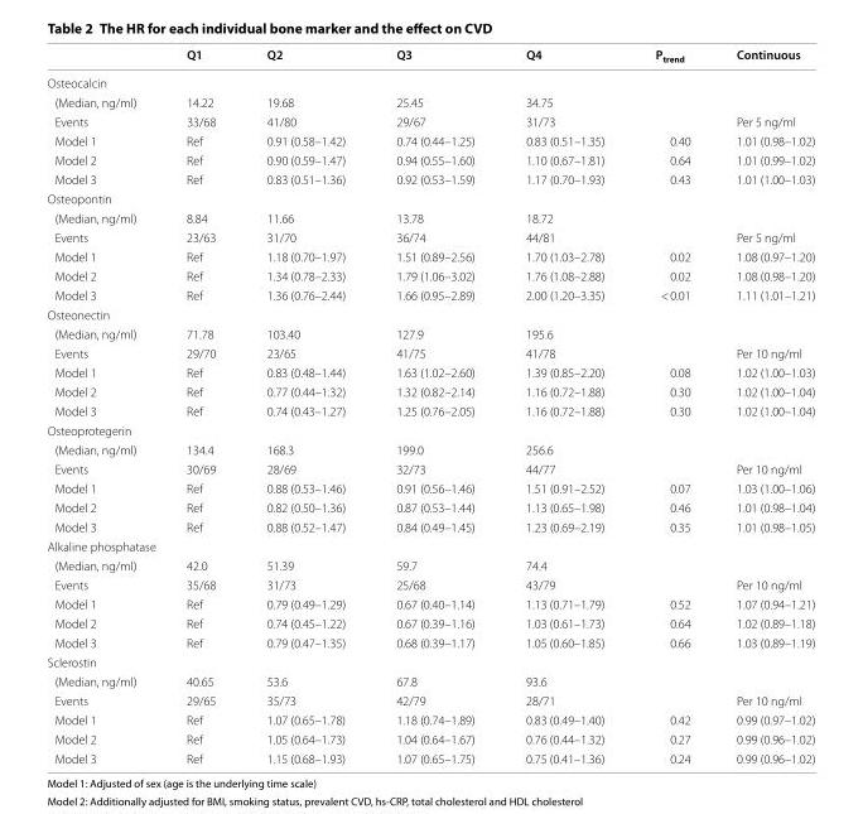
<table><thead><tr><td></td><td>Q1</td><td>Q2</td><td>Q3</td><td>Q4</td><td>P<sub>trend</sub></td><td>Continuous</td></tr></thead><tbody><tr><td colspan="7">Osteocalcin</td></tr><tr><td>(Median, ng/ml)</td><td>14.22</td><td>19.68</td><td>25.45</td><td>34.75</td><td></td><td></td></tr><tr><td>Events</td><td>33/68</td><td>41/80</td><td>29/67</td><td>31/73</td><td></td><td>Per 5 ng/ml</td></tr><tr><td>Model 1</td><td>Ref</td><td>0.91 (0.58–1.42)</td><td>0.74 (0.44–1.25)</td><td>0.83 (0.51–1.35)</td><td>0.40</td><td>1.01 (0.98–1.02)</td></tr><tr><td>Model 2</td><td>Ref</td><td>0.90 (0.59–1.47)</td><td>0.94 (0.55–1.60)</td><td>1.10 (0.67–1.81)</td><td>0.64</td><td>1.01 (0.99–1.02)</td></tr><tr><td>Model 3</td><td>Ref</td><td>0.83 (0.51–1.36)</td><td>0.92 (0.53–1.59)</td><td>1.17 (0.70–1.93)</td><td>0.43</td><td>1.01 (1.00–1.03)</td></tr><tr><td colspan="7">Osteopontin</td></tr><tr><td>(Median, ng/ml)</td><td>8.84</td><td>11.66</td><td>13.78</td><td>18.72</td><td></td><td></td></tr><tr><td>Events</td><td>23/63</td><td>31/70</td><td>36/74</td><td>44/81</td><td></td><td>Per 5 ng/ml</td></tr><tr><td>Model 1</td><td>Ref</td><td>1.18 (0.70–1.97)</td><td>1.51 (0.89–2.56)</td><td>1.70 (1.03–2.78)</td><td>0.02</td><td>1.08 (0.97–1.20)</td></tr><tr><td>Model 2</td><td>Ref</td><td>1.34 (0.78–2.33)</td><td>1.79 (1.06–3.02)</td><td>1.76 (1.08–2.88)</td><td>0.02</td><td>1.08 (0.98–1.20)</td></tr><tr><td>Model 3</td><td>Ref</td><td>1.36 (0.76–2.44)</td><td>1.66 (0.95–2.89)</td><td>2.00 (1.20–3.35)</td><td>&lt; 0.01</td><td>1.11 (1.01–1.21)</td></tr><tr><td colspan="7">Osteonectin</td></tr><tr><td>(Median, ng/ml)</td><td>71.78</td><td>103.40</td><td>127.9</td><td>195.6</td><td></td><td></td></tr><tr><td>Events</td><td>29/70</td><td>23/65</td><td>41/75</td><td>41/78</td><td></td><td>Per 10 ng/ml</td></tr><tr><td>Model 1</td><td>Ref</td><td>0.83 (0.48–1.44)</td><td>1.63 (1.02–2.60)</td><td>1.39 (0.85–2.20)</td><td>0.08</td><td>1.02 (1.00–1.03)</td></tr><tr><td>Model 2</td><td>Ref</td><td>0.77 (0.44–1.32)</td><td>1.32 (0.82–2.14)</td><td>1.16 (0.72–1.88)</td><td>0.30</td><td>1.02 (1.00–1.04)</td></tr><tr><td>Model 3</td><td>Ref</td><td>0.74 (0.43–1.27)</td><td>1.25 (0.76–2.05)</td><td>1.16 (0.72–1.88)</td><td>0.30</td><td>1.02 (1.00–1.04)</td></tr><tr><td colspan="7">Osteoprotegerin</td></tr><tr><td>(Median, ng/ml)</td><td>134.4</td><td>168.3</td><td>199.0</td><td>256.6</td><td></td><td></td></tr><tr><td>Events</td><td>30/69</td><td>28/69</td><td>32/73</td><td>44/77</td><td></td><td>Per 10 ng/ml</td></tr><tr><td>Model 1</td><td>Ref</td><td>0.88 (0.53–1.46)</td><td>0.91 (0.56–1.46)</td><td>1.51 (0.91–2.52)</td><td>0.07</td><td>1.03 (1.00–1.06)</td></tr><tr><td>Model 2</td><td>Ref</td><td>0.82 (0.50–1.36)</td><td>0.87 (0.53–1.44)</td><td>1.13 (0.65–1.98)</td><td>0.46</td><td>1.01 (0.98–1.04)</td></tr><tr><td>Model 3</td><td>Ref</td><td>0.88 (0.52–1.47)</td><td>0.84 (0.49–1.45)</td><td>1.23 (0.69–2.19)</td><td>0.35</td><td>1.01 (0.98–1.05)</td></tr><tr><td colspan="7">Alkaline phosphatase</td></tr><tr><td>(Median, ng/ml)</td><td>42.0</td><td>51.39</td><td>59.7</td><td>74.4</td><td></td><td></td></tr><tr><td>Events</td><td>35/68</td><td>31/73</td><td>25/68</td><td>43/79</td><td></td><td>Per 10 ng/ml</td></tr><tr><td>Model 1</td><td>Ref</td><td>0.79 (0.49–1.29)</td><td>0.67 (0.40–1.14)</td><td>1.13 (0.71–1.79)</td><td>0.52</td><td>1.07 (0.94–1.21)</td></tr><tr><td>Model 2</td><td>Ref</td><td>0.74 (0.45–1.22)</td><td>0.67 (0.39–1.16)</td><td>1.03 (0.61–1.73)</td><td>0.64</td><td>1.02 (0.89–1.18)</td></tr><tr><td>Model 3</td><td>Ref</td><td>0.79 (0.47–1.35)</td><td>0.68 (0.39–1.17)</td><td>1.05 (0.60–1.85)</td><td>0.66</td><td>1.03 (0.89–1.19)</td></tr><tr><td colspan="7">Sclerostin</td></tr><tr><td>(Median, ng/ml)</td><td>40.65</td><td>53.6</td><td>67.8</td><td>93.6</td><td></td><td></td></tr><tr><td>Events</td><td>29/65</td><td>35/73</td><td>42/79</td><td>28/71</td><td></td><td>Per 10 ng/ml</td></tr><tr><td>Model 1</td><td>Ref</td><td>1.07 (0.65–1.78)</td><td>1.18 (0.74–1.89)</td><td>0.83 (0.49–1.40)</td><td>0.42</td><td>0.99 (0.97–1.02)</td></tr><tr><td>Model 2</td><td>Ref</td><td>1.05 (0.64–1.73)</td><td>1.04 (0.64–1.67)</td><td>0.76 (0.44–1.32)</td><td>0.27</td><td>0.99 (0.96–1.02)</td></tr><tr><td>Model 3</td><td>Ref</td><td>1.15 (0.68–1.93)</td><td>1.07 (0.65–1.75)</td><td>0.75 (0.41–1.36)</td><td>0.24</td><td>0.99 (0.96–1.02)</td></tr></tbody></table>